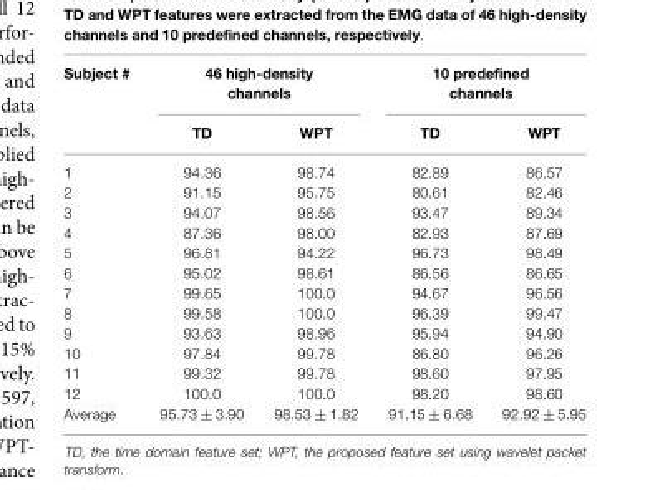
<table><thead><tr><td rowspan="2">Subject #</td><td colspan="2">46 high-density channels</td><td colspan="2">10 predefined channels</td></tr><tr><td>TD</td><td>WPT</td><td>TD</td><td>WPT</td></tr></thead><tbody><tr><td>1</td><td>94.36</td><td>98.74</td><td>82.89</td><td>86.57</td></tr><tr><td>2</td><td>91.15</td><td>95.75</td><td>80.61</td><td>82.46</td></tr><tr><td>3</td><td>94.07</td><td>98.56</td><td>93.47</td><td>89.34</td></tr><tr><td>4</td><td>87.36</td><td>98.00</td><td>82.93</td><td>87.69</td></tr><tr><td>5</td><td>96.81</td><td>94.22</td><td>96.73</td><td>98.49</td></tr><tr><td>6</td><td>95.02</td><td>98.61</td><td>86.56</td><td>86.65</td></tr><tr><td>7</td><td>99.65</td><td>100.0</td><td>94.67</td><td>96.56</td></tr><tr><td>8</td><td>99.58</td><td>100.0</td><td>96.39</td><td>99.47</td></tr><tr><td>9</td><td>93.63</td><td>98.96</td><td>95.94</td><td>94.90</td></tr><tr><td>10</td><td>97.84</td><td>99.78</td><td>86.80</td><td>96.26</td></tr><tr><td>11</td><td>99.32</td><td>99.78</td><td>98.60</td><td>97.95</td></tr><tr><td>12</td><td>100.0</td><td>100.0</td><td>98.20</td><td>98.60</td></tr><tr><td>Average</td><td>95.73 ± 3.90</td><td>98.53 ± 1.82</td><td>91.15 ± 6.68</td><td>92.92 ± 5.95</td></tr></tbody></table>